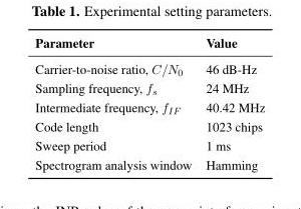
<table><thead><tr><td>Parameter</td><td>Value</td></tr></thead><tbody><tr><td>Carrier-to-noise ratio, C/N<sub>0</sub></td><td>46 dB-Hz</td></tr><tr><td>Sampling frequency, f<sub>s</sub></td><td>24 MHz</td></tr><tr><td>Intermediate frequency, f<sub>IF</sub></td><td>40.42 MHz</td></tr><tr><td>Code length</td><td>1023 chips</td></tr><tr><td>Sweep period</td><td>1 ms</td></tr><tr><td>Spectrogram analysis window</td><td>Hamming</td></tr></tbody></table>